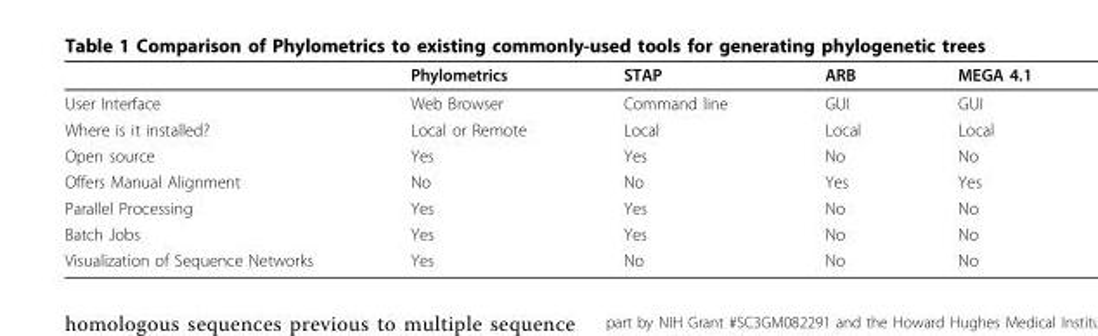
<table><thead><tr><td></td><td>Phylometrics</td><td>STAP</td><td>ARB</td><td>MEGA 4.1</td></tr></thead><tbody><tr><td>User Interface</td><td>Web Browser</td><td>Command line</td><td>GUI</td><td>GUI</td></tr><tr><td>Where is it installed?</td><td>Local or Remote</td><td>Local</td><td>Local</td><td>Local</td></tr><tr><td>Open source</td><td>Yes</td><td>Yes</td><td>No</td><td>No</td></tr><tr><td>Offers Manual Alignment</td><td>No</td><td>No</td><td>Yes</td><td>Yes</td></tr><tr><td>Parallel Processing</td><td>Yes</td><td>Yes</td><td>No</td><td>No</td></tr><tr><td>Batch Jobs</td><td>Yes</td><td>Yes</td><td>No</td><td>No</td></tr><tr><td>Visualization of Sequence Networks</td><td>Yes</td><td>No</td><td>No</td><td>No</td></tr></tbody></table>